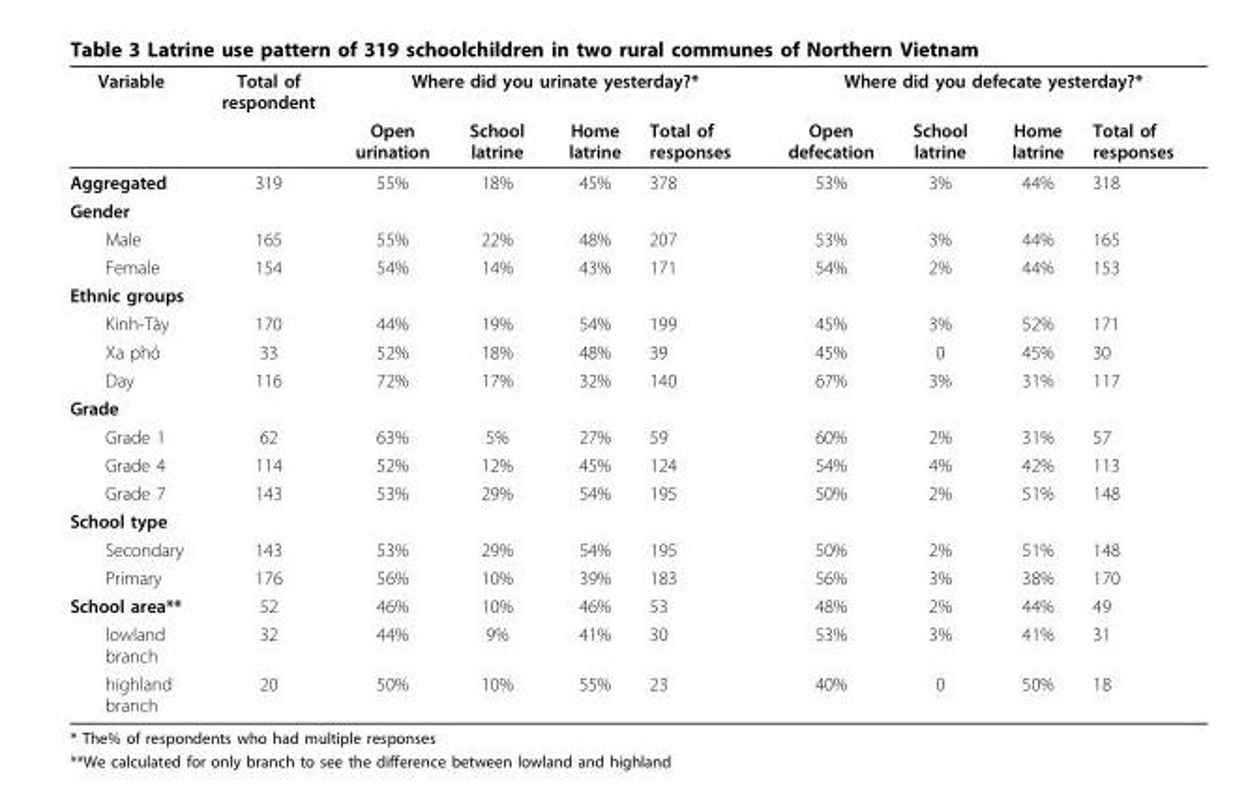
<table><thead><tr><td rowspan="2">Variable</td><td rowspan="2">Total of respondent</td><td colspan="4">Where did you urinate yesterday?*</td><td colspan="4">Where did you defecate yesterday?*</td></tr><tr><td>Open urination</td><td>School latrine</td><td>Home latrine</td><td>Total of responses</td><td>Open defecation</td><td>School latrine</td><td>Home latrine</td><td>Total of responses</td></tr></thead><tbody><tr><td>Aggregated</td><td>319</td><td>55%</td><td>18%</td><td>45%</td><td>378</td><td>53%</td><td>3%</td><td>44%</td><td>318</td></tr><tr><td colspan="10">Gender</td></tr><tr><td>Male</td><td>165</td><td>55%</td><td>22%</td><td>48%</td><td>207</td><td>53%</td><td>3%</td><td>44%</td><td>165</td></tr><tr><td>Female</td><td>154</td><td>54%</td><td>14%</td><td>43%</td><td>171</td><td>54%</td><td>2%</td><td>44%</td><td>153</td></tr><tr><td colspan="10">Ethnic groups</td></tr><tr><td>Kinh-Tày</td><td>170</td><td>44%</td><td>19%</td><td>54%</td><td>199</td><td>45%</td><td>3%</td><td>52%</td><td>171</td></tr><tr><td>Xa phó</td><td>33</td><td>52%</td><td>18%</td><td>48%</td><td>39</td><td>45%</td><td>0</td><td>45%</td><td>30</td></tr><tr><td>Day</td><td>116</td><td>72%</td><td>17%</td><td>32%</td><td>140</td><td>67%</td><td>3%</td><td>31%</td><td>117</td></tr><tr><td colspan="10">Grade</td></tr><tr><td>Grade 1</td><td>62</td><td>63%</td><td>5%</td><td>27%</td><td>59</td><td>60%</td><td>2%</td><td>31%</td><td>57</td></tr><tr><td>Grade 4</td><td>114</td><td>52%</td><td>12%</td><td>45%</td><td>124</td><td>54%</td><td>4%</td><td>42%</td><td>113</td></tr><tr><td>Grade 7</td><td>143</td><td>53%</td><td>29%</td><td>54%</td><td>195</td><td>50%</td><td>2%</td><td>51%</td><td>148</td></tr><tr><td colspan="10">School type</td></tr><tr><td>Secondary</td><td>143</td><td>53%</td><td>29%</td><td>54%</td><td>195</td><td>50%</td><td>2%</td><td>51%</td><td>148</td></tr><tr><td>Primary</td><td>176</td><td>56%</td><td>10%</td><td>39%</td><td>183</td><td>56%</td><td>3%</td><td>38%</td><td>170</td></tr><tr><td>School area**</td><td>52</td><td>46%</td><td>10%</td><td>46%</td><td>53</td><td>48%</td><td>2%</td><td>44%</td><td>49</td></tr><tr><td>lowland branch</td><td>32</td><td>44%</td><td>9%</td><td>41%</td><td>30</td><td>53%</td><td>3%</td><td>41%</td><td>31</td></tr><tr><td>highland branch</td><td>20</td><td>50%</td><td>10%</td><td>55%</td><td>23</td><td>40%</td><td>0</td><td>50%</td><td>18</td></tr></tbody></table>